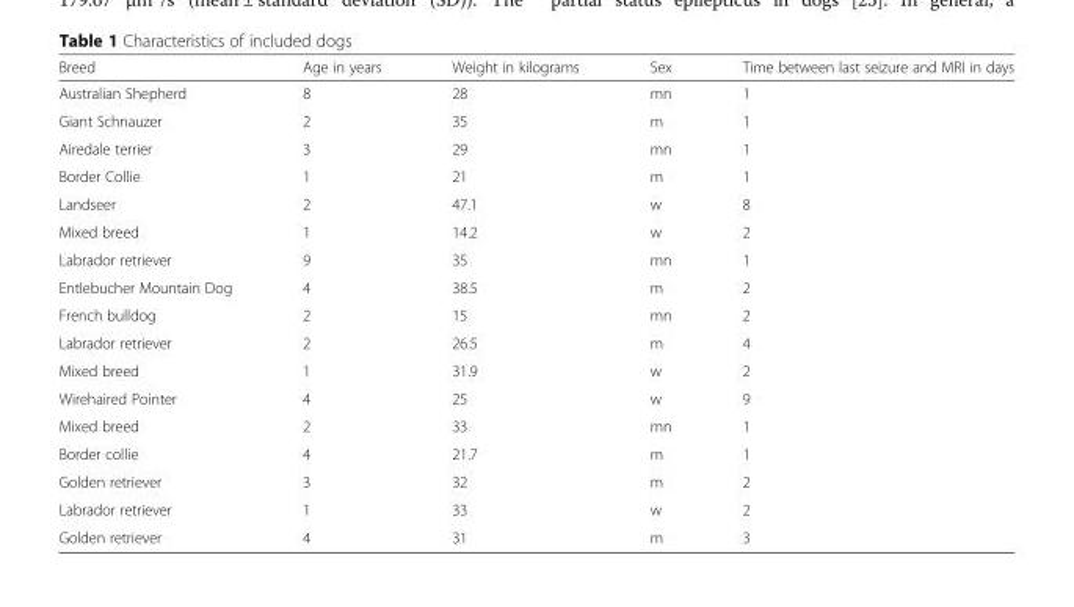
<table><thead><tr><td>Breed</td><td>Age in years</td><td>Weight in kilograms</td><td>Sex</td><td>Time between last seizure and MRI in days</td></tr></thead><tbody><tr><td>Australian Shepherd</td><td>8</td><td>28</td><td>mn</td><td>1</td></tr><tr><td>Giant Schnauzer</td><td>2</td><td>35</td><td>m</td><td>1</td></tr><tr><td>Airedale terrier</td><td>3</td><td>29</td><td>mn</td><td>1</td></tr><tr><td>Border Collie</td><td>1</td><td>21</td><td>m</td><td>1</td></tr><tr><td>Landseer</td><td>2</td><td>47.1</td><td>w</td><td>8</td></tr><tr><td>Mixed breed</td><td>1</td><td>14.2</td><td>w</td><td>2</td></tr><tr><td>Labrador retriever</td><td>9</td><td>35</td><td>mn</td><td>1</td></tr><tr><td>Entlebucher Mountain Dog</td><td>4</td><td>38.5</td><td>m</td><td>2</td></tr><tr><td>French bulldog</td><td>2</td><td>15</td><td>mn</td><td>2</td></tr><tr><td>Labrador retriever</td><td>2</td><td>26.5</td><td>m</td><td>4</td></tr><tr><td>Mixed breed</td><td>1</td><td>31.9</td><td>w</td><td>2</td></tr><tr><td>Wirehaired Pointer</td><td>4</td><td>25</td><td>w</td><td>9</td></tr><tr><td>Mixed breed</td><td>2</td><td>33</td><td>mn</td><td>1</td></tr><tr><td>Border collie</td><td>4</td><td>21.7</td><td>m</td><td>1</td></tr><tr><td>Golden retriever</td><td>3</td><td>32</td><td>m</td><td>2</td></tr><tr><td>Labrador retriever</td><td>1</td><td>33</td><td>w</td><td>2</td></tr><tr><td>Golden retriever</td><td>4</td><td>31</td><td>m</td><td>3</td></tr></tbody></table>